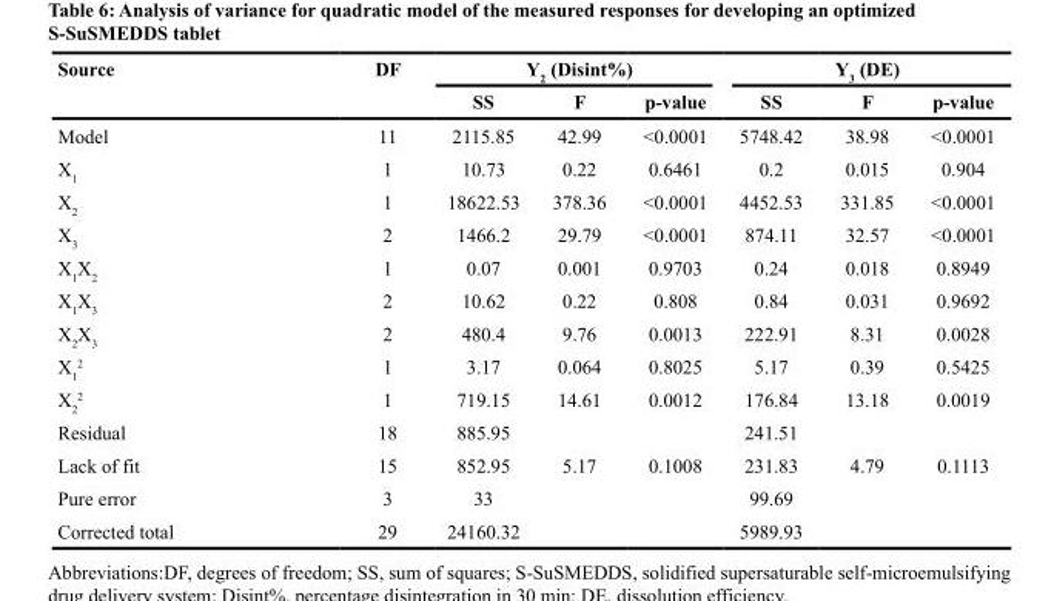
<table><thead><tr><td rowspan="2">Source</td><td rowspan="2">DF</td><td colspan="3">Y<sub>2</sub> (Disint%)</td><td colspan="3">Y<sub>3</sub> (DE)</td></tr><tr><td>SS</td><td>F</td><td>p-value</td><td>SS</td><td>F</td><td>p-value</td></tr></thead><tbody><tr><td>Model</td><td>11</td><td>2115.85</td><td>42.99</td><td>&lt;0.0001</td><td>5748.42</td><td>38.98</td><td>&lt;0.0001</td></tr><tr><td>X<sub>1</sub></td><td>1</td><td>10.73</td><td>0.22</td><td>0.6461</td><td>0.2</td><td>0.015</td><td>0.904</td></tr><tr><td>X<sub>2</sub></td><td>1</td><td>18622.53</td><td>378.36</td><td>&lt;0.0001</td><td>4452.53</td><td>331.85</td><td>&lt;0.0001</td></tr><tr><td>X<sub>3</sub></td><td>2</td><td>1466.2</td><td>29.79</td><td>&lt;0.0001</td><td>874.11</td><td>32.57</td><td>&lt;0.0001</td></tr><tr><td>X<sub>1</sub>X<sub>2</sub></td><td>1</td><td>0.07</td><td>0.001</td><td>0.9703</td><td>0.24</td><td>0.018</td><td>0.8949</td></tr><tr><td>X<sub>1</sub>X<sub>3</sub></td><td>2</td><td>10.62</td><td>0.22</td><td>0.808</td><td>0.84</td><td>0.031</td><td>0.9692</td></tr><tr><td>X<sub>2</sub>X<sub>3</sub></td><td>2</td><td>480.4</td><td>9.76</td><td>0.0013</td><td>222.91</td><td>8.31</td><td>0.0028</td></tr><tr><td>X<sub>1</sub> <sup>2</sup></td><td>1</td><td>3.17</td><td>0.064</td><td>0.8025</td><td>5.17</td><td>0.39</td><td>0.5425</td></tr><tr><td>X<sub>2</sub> <sup>2</sup></td><td>1</td><td>719.15</td><td>14.61</td><td>0.0012</td><td>176.84</td><td>13.18</td><td>0.0019</td></tr><tr><td>Residual</td><td>18</td><td>885.95</td><td></td><td></td><td>241.51</td><td></td><td></td></tr><tr><td>Lack of fit</td><td>15</td><td>852.95</td><td>5.17</td><td>0.1008</td><td>231.83</td><td>4.79</td><td>0.1113</td></tr><tr><td>Pure error</td><td>3</td><td>33</td><td></td><td></td><td>99.69</td><td></td><td></td></tr><tr><td>Corrected total</td><td>29</td><td>24160.32</td><td></td><td></td><td>5989.93</td><td></td><td></td></tr></tbody></table>